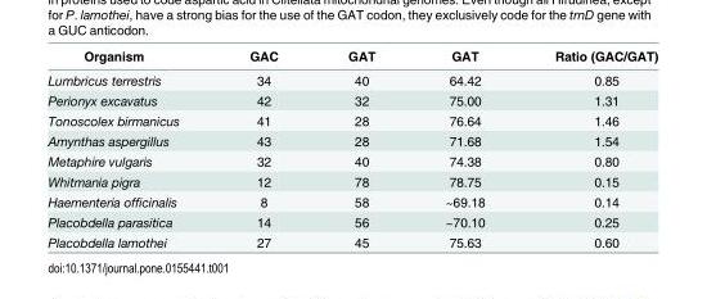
<table><thead><tr><td>Organism</td><td>GAC</td><td>GAT</td><td>GAT</td><td>Ratio (GAC/GAT)</td></tr></thead><tbody><tr><td>Lumbricus terrestris</td><td>34</td><td>40</td><td>64.42</td><td>0.85</td></tr><tr><td>Perionyx excavatus</td><td>42</td><td>32</td><td>75.00</td><td>1.31</td></tr><tr><td>Tonoscolex birmanicus</td><td>41</td><td>28</td><td>76.64</td><td>1.46</td></tr><tr><td>Amynthas aspergillus</td><td>43</td><td>28</td><td>71.68</td><td>1.54</td></tr><tr><td>Metaphire vulgaris</td><td>32</td><td>40</td><td>74.38</td><td>0.80</td></tr><tr><td>Whitmania pigra</td><td>12</td><td>78</td><td>78.75</td><td>0.15</td></tr><tr><td>Haementeria officinalis</td><td>8</td><td>58</td><td>~69.18</td><td>0.14</td></tr><tr><td>Placobdella parasitica</td><td>14</td><td>56</td><td>~70.10</td><td>0.25</td></tr><tr><td>Placobdella lamothei</td><td>27</td><td>45</td><td>75.63</td><td>0.60</td></tr></tbody></table>